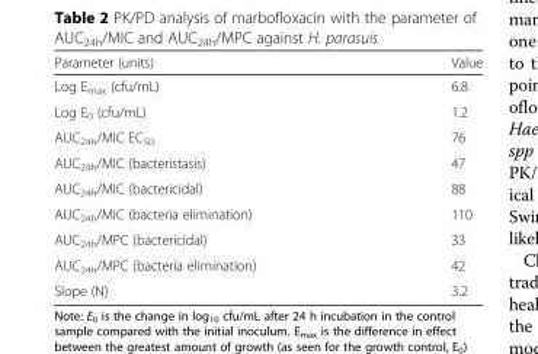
<table><thead><tr><td>Parameter (units)</td><td>Value</td></tr></thead><tbody><tr><td>Log E<sub>max</sub> (cfu/mL)</td><td>6.8</td></tr><tr><td>Log E<sub>0</sub> (cfu/mL)</td><td>1.2</td></tr><tr><td>AUC<sub>24h</sub>/MIC EC<sub>50</sub></td><td>76</td></tr><tr><td>AUC<sub>24h</sub>/MIC (bacteristasis)</td><td>47</td></tr><tr><td>AUC<sub>24h</sub>/MIC (bactericidal)</td><td>88</td></tr><tr><td>AUC<sub>24h</sub>/MIC (bacteria elimination)</td><td>110</td></tr><tr><td>AUC<sub>24h</sub>/MPC (bactericidal)</td><td>33</td></tr><tr><td>AUC<sub>24h</sub>/MPC (bacteria elimination)</td><td>42</td></tr><tr><td>Slope (N)</td><td>3.2</td></tr></tbody></table>